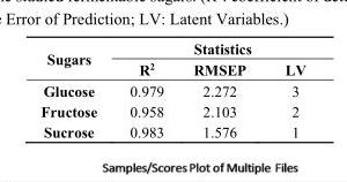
<table><thead><tr><td rowspan="2">Sugars</td><td colspan="3">Statistics</td></tr><tr><td>R<sup>2</sup></td><td>RMSEP</td><td>LV</td></tr></thead><tbody><tr><td>Glucose</td><td>0.979</td><td>2.272</td><td>3</td></tr><tr><td>Fructose</td><td>0.958</td><td>2.103</td><td>2</td></tr><tr><td>Sucrose</td><td>0.983</td><td>1.576</td><td>1</td></tr></tbody></table>